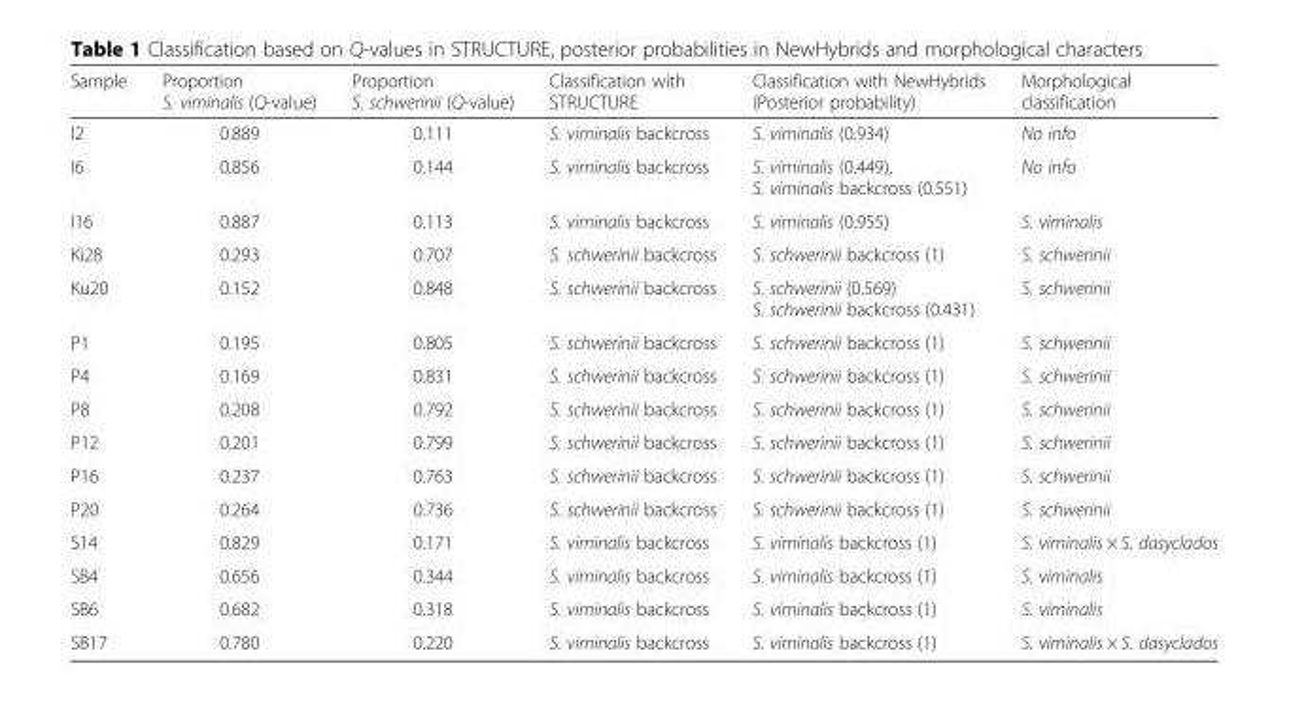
<table><thead><tr><td>Sample</td><td>Proportion S. viminalis (Q-value)</td><td>Proportion S. schwerinii (Q-value)</td><td>Classification with STRUCTURE</td><td>Classification with NewHybrids (Posterior probability)</td><td>Morphological classification</td></tr></thead><tbody><tr><td>I2</td><td>0.889</td><td>0.111</td><td>S. viminalis backcross</td><td>S. viminalis (0.934)</td><td>No info</td></tr><tr><td>I6</td><td>0.856</td><td>0.144</td><td>S. viminalis backcross</td><td>S. viminalis (0.449), S. viminalis backcross (0.551)</td><td>No info</td></tr><tr><td>I16</td><td>0.887</td><td>0.113</td><td>S. viminalis backcross</td><td>S. viminalis (0.955)</td><td>S. viminalis</td></tr><tr><td>Ki28</td><td>0.293</td><td>0.707</td><td>S. schwerinii backcross</td><td>S. schwerinii backcross (1)</td><td>S. schwerinii</td></tr><tr><td>Ku20</td><td>0.152</td><td>0.848</td><td>S. schwerinii backcross</td><td>S. schwerinii (0.569) S. schwerinii backcross (0.431)</td><td>S. schwerinii</td></tr><tr><td>P1</td><td>0.195</td><td>0.805</td><td>S. schwerinii backcross</td><td>S. schwerinii backcross (1)</td><td>S. schwerinii</td></tr><tr><td>P4</td><td>0.169</td><td>0.831</td><td>S. schwerinii backcross</td><td>S. schwerinii backcross (1)</td><td>S. schwerinii</td></tr><tr><td>P8</td><td>0.208</td><td>0.792</td><td>S. schwerinii backcross</td><td>S. schwerinii backcross (1)</td><td>S. schwerinii</td></tr><tr><td>P12</td><td>0.201</td><td>0.799</td><td>S. schwerinii backcross</td><td>S. schwerinii backcross (1)</td><td>S. schwerinii</td></tr><tr><td>P16</td><td>0.237</td><td>0.763</td><td>S. schwerinii backcross</td><td>S. schwerinii backcross (1)</td><td>S. schwerinii</td></tr><tr><td>P20</td><td>0.264</td><td>0.736</td><td>S. schwerinii backcross</td><td>S. schwerinii backcross (1)</td><td>S. schwerinii</td></tr><tr><td>S14</td><td>0.829</td><td>0.171</td><td>S. viminalis backcross</td><td>S. viminalis backcross (1)</td><td>S. viminalis × S. dasyclados</td></tr><tr><td>SB4</td><td>0.656</td><td>0.344</td><td>S. viminalis backcross</td><td>S. viminalis backcross (1)</td><td>S. viminalis</td></tr><tr><td>SB6</td><td>0.682</td><td>0.318</td><td>S. viminalis backcross</td><td>S. viminalis backcross (1)</td><td>S. viminalis</td></tr><tr><td>SB17</td><td>0.780</td><td>0.220</td><td>S. viminalis backcross</td><td>S. viminalis backcross (1)</td><td>S. viminalis × S. dasyclados</td></tr></tbody></table>